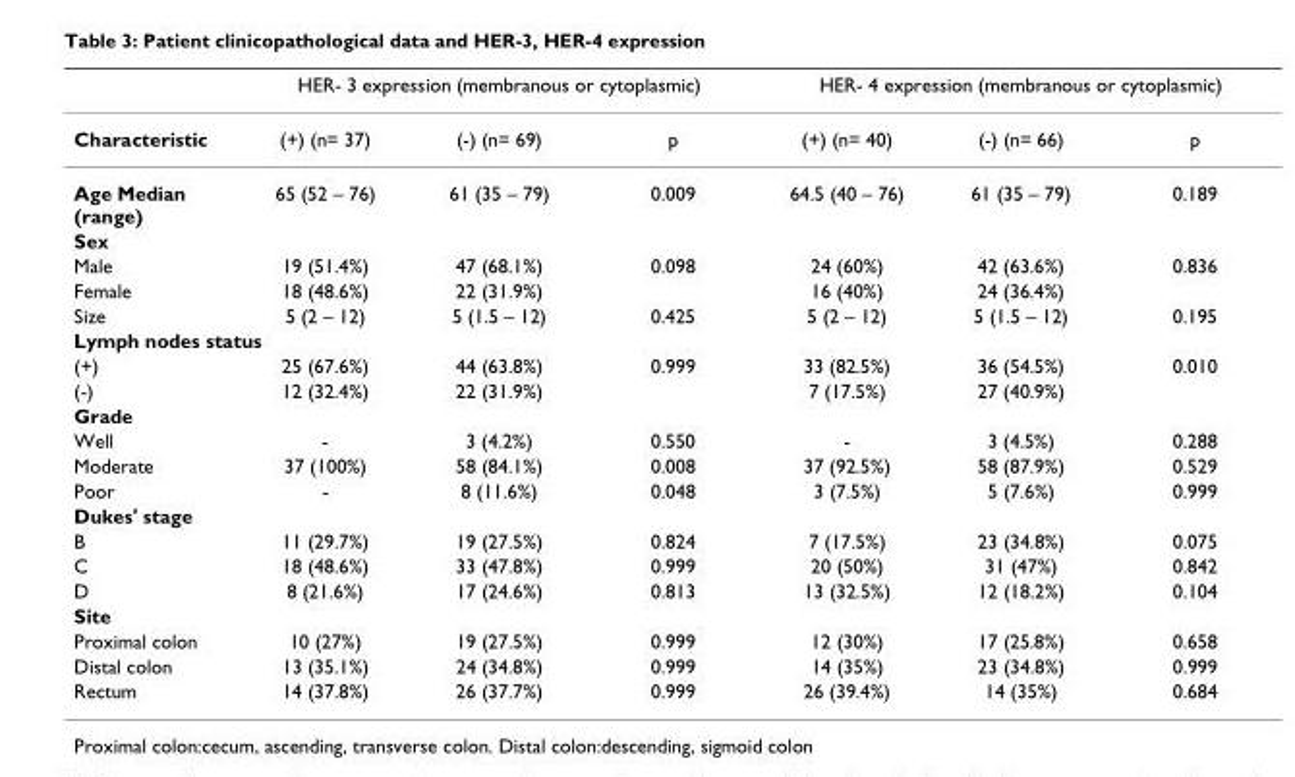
<table><thead><tr><td rowspan="2">Characteristic</td><td colspan="3">HER- 3 expression (membranous or cytoplasmic)</td><td colspan="3">HER- 4 expression (membranous or cytoplasmic)</td></tr><tr><td>(+) (n= 37)</td><td>(-) (n= 69)</td><td>p</td><td>(+) (n= 40)</td><td>(-) (n= 66)</td><td>p</td></tr></thead><tbody><tr><td>Age Median (range)</td><td>65 (52 – 76)</td><td>61 (35 – 79)</td><td>0.009</td><td>64.5 (40 – 76)</td><td>61 (35 – 79)</td><td>0.189</td></tr><tr><td colspan="7">Sex</td></tr><tr><td>Male</td><td>19 (51.4%)</td><td>47 (68.1%)</td><td>0.098</td><td>24 (60%)</td><td>42 (63.6%)</td><td>0.836</td></tr><tr><td>Female</td><td>18 (48.6%)</td><td>22 (31.9%)</td><td></td><td>16 (40%)</td><td>24 (36.4%)</td><td></td></tr><tr><td>Size</td><td>5 (2 – 12)</td><td>5 (1.5 – 12)</td><td>0.425</td><td>5 (2 – 12)</td><td>5 (1.5 – 12)</td><td>0.195</td></tr><tr><td colspan="7">Lymph nodes status</td></tr><tr><td>(+)</td><td>25 (67.6%)</td><td>44 (63.8%)</td><td>0.999</td><td>33 (82.5%)</td><td>36 (54.5%)</td><td>0.010</td></tr><tr><td>(-)</td><td>12 (32.4%)</td><td>22 (31.9%)</td><td></td><td>7 (17.5%)</td><td>27 (40.9%)</td><td></td></tr><tr><td colspan="7">Grade</td></tr><tr><td>Well</td><td>-</td><td>3 (4.2%)</td><td>0.550</td><td>-</td><td>3 (4.5%)</td><td>0.288</td></tr><tr><td>Moderate</td><td>37 (100%)</td><td>58 (84.1%)</td><td>0.008</td><td>37 (92.5%)</td><td>58 (87.9%)</td><td>0.529</td></tr><tr><td>Poor</td><td>-</td><td>8 (11.6%)</td><td>0.048</td><td>3 (7.5%)</td><td>5 (7.6%)</td><td>0.999</td></tr><tr><td colspan="7">Dukes&#x27; stage</td></tr><tr><td>B</td><td>11 (29.7%)</td><td>19 (27.5%)</td><td>0.824</td><td>7 (17.5%)</td><td>23 (34.8%)</td><td>0.075</td></tr><tr><td>C</td><td>18 (48.6%)</td><td>33 (47.8%)</td><td>0.999</td><td>20 (50%)</td><td>31 (47%)</td><td>0.842</td></tr><tr><td>D</td><td>8 (21.6%)</td><td>17 (24.6%)</td><td>0.813</td><td>13 (32.5%)</td><td>12 (18.2%)</td><td>0.104</td></tr><tr><td colspan="7">Site</td></tr><tr><td>Proximal colon</td><td>10 (27%)</td><td>19 (27.5%)</td><td>0.999</td><td>12 (30%)</td><td>17 (25.8%)</td><td>0.658</td></tr><tr><td>Distal colon</td><td>13 (35.1%)</td><td>24 (34.8%)</td><td>0.999</td><td>14 (35%)</td><td>23 (34.8%)</td><td>0.999</td></tr><tr><td>Rectum</td><td>14 (37.8%)</td><td>26 (37.7%)</td><td>0.999</td><td>26 (39.4%)</td><td>14 (35%)</td><td>0.684</td></tr></tbody></table>